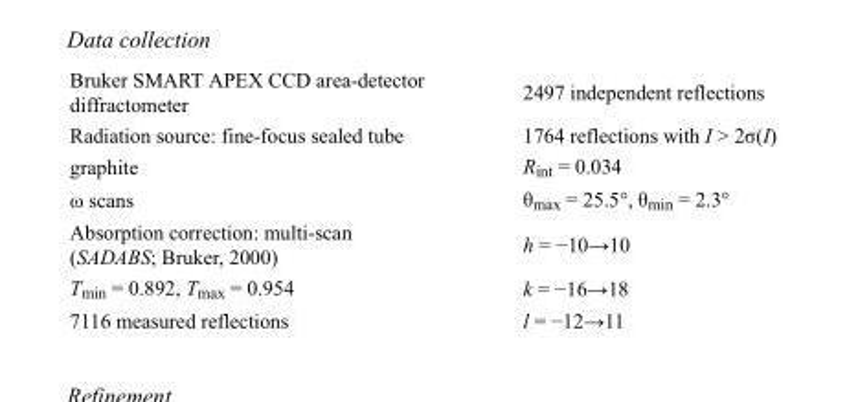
<table><tbody><tr><td>Bruker SMART APEX CCD area-detector diffractometer</td><td>2497 independent reflections</td></tr><tr><td>Radiation source: fine-focus sealed tube</td><td>1764 reflections with I &gt; 2σ(I)</td></tr><tr><td>graphite</td><td>R<sub>int</sub> = 0.034</td></tr><tr><td>ω scans</td><td>θ<sub>max</sub> = 25.5°, θ<sub>min</sub> = 2.3°</td></tr><tr><td>Absorption correction: multi-scan (SADABS; Bruker, 2000)</td><td>h = −10→10</td></tr><tr><td>T<sub>min</sub> = 0.892, T<sub>max</sub> = 0.954</td><td>k = −16→18</td></tr><tr><td>7116 measured reflections</td><td>l = −12→11</td></tr></tbody></table>